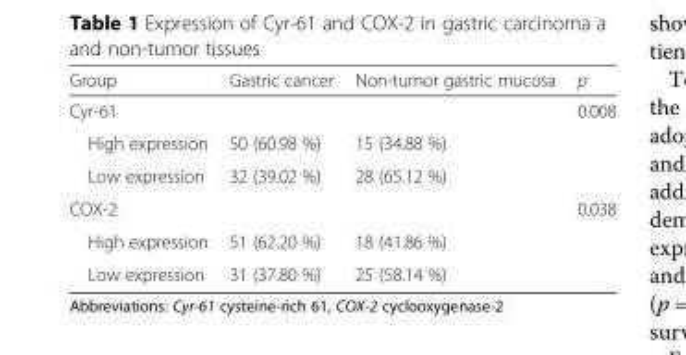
<table><thead><tr><td>Group</td><td>Gastric cancer</td><td>Non-tumor gastric mucosa</td><td>p</td></tr></thead><tbody><tr><td>Cyr-61</td><td></td><td></td><td>0.008</td></tr><tr><td>High expression</td><td>50 (60.98 %)</td><td>15 (34.88 %)</td><td></td></tr><tr><td>Low expression</td><td>32 (39.02 %)</td><td>28 (65.12 %)</td><td></td></tr><tr><td>COX-2</td><td></td><td></td><td>0.038</td></tr><tr><td>High expression</td><td>51 (62.20 %)</td><td>18 (41.86 %)</td><td></td></tr><tr><td>Low expression</td><td>31 (37.80 %)</td><td>25 (58.14 %)</td><td></td></tr></tbody></table>